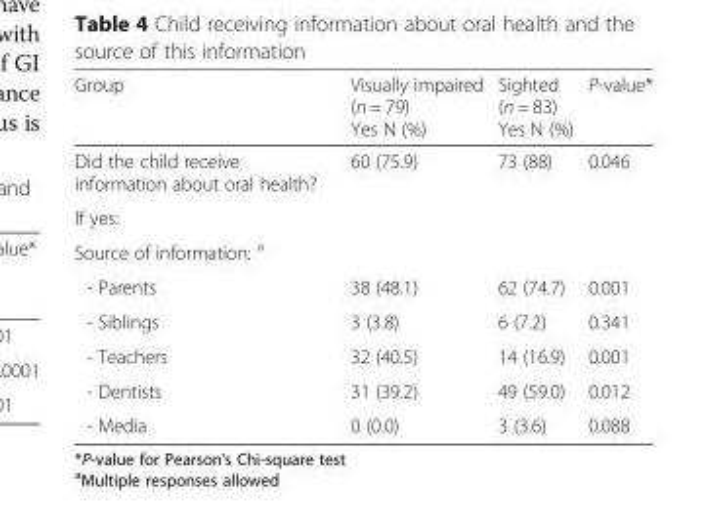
<table><thead><tr><td>Group</td><td>Visually impaired (n = 79) Yes N (%)</td><td>Sighted (n = 83) Yes N (%)</td><td>P-value*</td></tr></thead><tbody><tr><td>Did the child receive information about oral health?</td><td>60 (75.9)</td><td>73 (88)</td><td>0.046</td></tr><tr><td colspan="4">If yes:</td></tr><tr><td colspan="4">Source of information: <sup>a</sup></td></tr><tr><td>- Parents</td><td>38 (48.1)</td><td>62 (74.7)</td><td>0.001</td></tr><tr><td>- Siblings</td><td>3 (3.8)</td><td>6 (7.2)</td><td>0.341</td></tr><tr><td>- Teachers</td><td>32 (40.5)</td><td>14 (16.9)</td><td>0.001</td></tr><tr><td>- Dentists</td><td>31 (39.2)</td><td>49 (59.0)</td><td>0.012</td></tr><tr><td>- Media</td><td>0 (0.0)</td><td>3 (3.6)</td><td>0.088</td></tr></tbody></table>